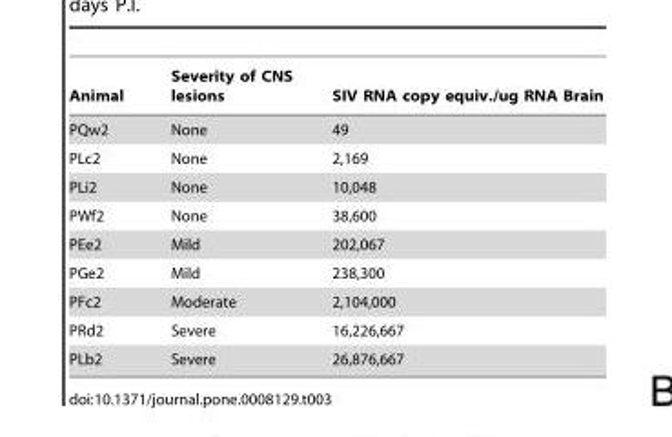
<table><thead><tr><td>Animal</td><td>Severity of CNS lesions</td><td>SIV RNA copy equiv./ug RNA Brain</td></tr></thead><tbody><tr><td>PQw2</td><td>None</td><td>49</td></tr><tr><td>PLc2</td><td>None</td><td>2,169</td></tr><tr><td>PLi2</td><td>None</td><td>10,048</td></tr><tr><td>PWf2</td><td>None</td><td>38,600</td></tr><tr><td>PEe2</td><td>Mild</td><td>202,067</td></tr><tr><td>PGe2</td><td>Mild</td><td>238,300</td></tr><tr><td>PFc2</td><td>Moderate</td><td>2,104,000</td></tr><tr><td>PRd2</td><td>Severe</td><td>16,226,667</td></tr><tr><td>PLb2</td><td>Severe</td><td>26,876,667</td></tr></tbody></table>